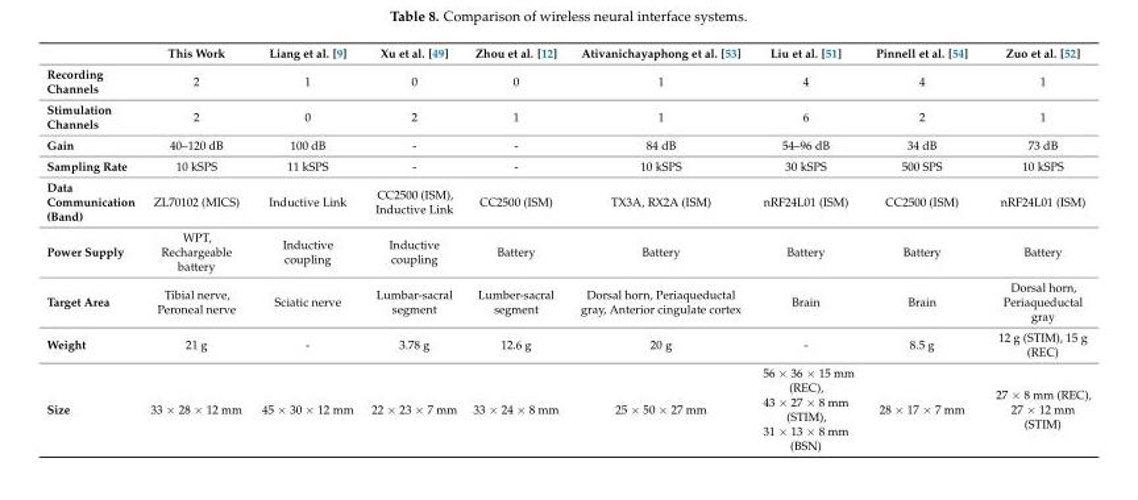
<table><thead><tr><td></td><td>This Work</td><td>Liang et al. [9]</td><td>Xu et al. [49]</td><td>Zhou et al. [12]</td><td>Ativanichayaphong et al. [53]</td><td>Liu et al. [51]</td><td>Pinnell et al. [54]</td><td>Zuo et al. [52]</td></tr></thead><tbody><tr><td>Recording Channels</td><td>2</td><td>1</td><td>0</td><td>0</td><td>1</td><td>4</td><td>4</td><td>1</td></tr><tr><td>Stimulation Channels</td><td>2</td><td>0</td><td>2</td><td>1</td><td>1</td><td>6</td><td>2</td><td>1</td></tr><tr><td>Gain</td><td>40–120 dB</td><td>100 dB</td><td>-</td><td>-</td><td>84 dB</td><td>54–96 dB</td><td>34 dB</td><td>73 dB</td></tr><tr><td>Sampling Rate</td><td>10 kSPS</td><td>11 kSPS</td><td>-</td><td>-</td><td>10 kSPS</td><td>30 kSPS</td><td>500 SPS</td><td>10 kSPS</td></tr><tr><td>Data Communication (Band)</td><td>ZL70102 (MICS)</td><td>Inductive Link</td><td>CC2500 (ISM), Inductive Link</td><td>CC2500 (ISM)</td><td>TX3A, RX2A (ISM)</td><td>nRF24L01 (ISM)</td><td>CC2500 (ISM)</td><td>nRF24L01 (ISM)</td></tr><tr><td>Power Supply</td><td>WPT, Rechargeable battery</td><td>Inductive coupling</td><td>Inductive coupling</td><td>Battery</td><td>Battery</td><td>Battery</td><td>Battery</td><td>Battery</td></tr><tr><td>Target Area</td><td>Tibial nerve, Peroneal nerve</td><td>Sciatic nerve</td><td>Lumbar-sacral segment</td><td>Lumber-sacral segment</td><td>Dorsal horn, Periaqueductal gray, Anterior cingulate cortex</td><td>Brain</td><td>Brain</td><td>Dorsal horn, Periaqueductal gray</td></tr><tr><td>Weight</td><td>21 g</td><td>-</td><td>3.78 g</td><td>12.6 g</td><td>20 g</td><td>-</td><td>8.5 g</td><td>12 g (STIM), 15 g (REC)</td></tr><tr><td>Size</td><td>33 × 28 × 12 mm</td><td>45 × 30 × 12 mm</td><td>22 × 23 × 7 mm</td><td>33 × 24 × 8 mm</td><td>25 × 50 × 27 mm</td><td>56 × 36 × 15 mm (REC), 43 × 27 × 8 mm (STIM), 31 × 13 × 8 mm (BSN)</td><td>28 × 17 × 7 mm</td><td>27 × 8 mm (REC), 27 × 12 mm (STIM)</td></tr></tbody></table>